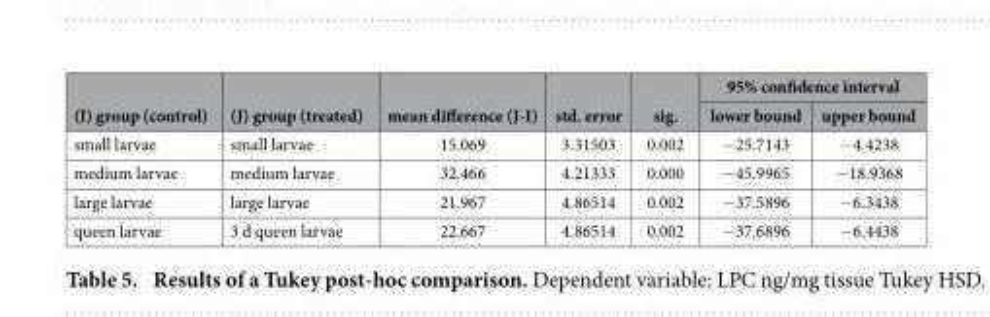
<table><thead><tr><td rowspan="2">(I) group (control)</td><td rowspan="2">(J) group (treated)</td><td rowspan="2">mean difference (J-I)</td><td rowspan="2">std. error</td><td rowspan="2">sig.</td><td colspan="2">95% confidence interval</td></tr><tr><td>lower bound</td><td>upper bound</td></tr></thead><tbody><tr><td>small larvae</td><td>small larvae</td><td>15.069</td><td>3.31503</td><td>0.002</td><td>− 25.7143</td><td>− 4.4238</td></tr><tr><td>medium larvae</td><td>medium larvae</td><td>32.466</td><td>4.21333</td><td>0.000</td><td>− 45.9965</td><td>− 18.9368</td></tr><tr><td>large larvae</td><td>large larvae</td><td>21.967</td><td>4.86514</td><td>0.002</td><td>− 37.5896</td><td>− 6.3438</td></tr><tr><td>queen larvae</td><td>3 d queen larvae</td><td>22.667</td><td>4.86514</td><td>0.002</td><td>− 37.6896</td><td>− 6.4438</td></tr></tbody></table>